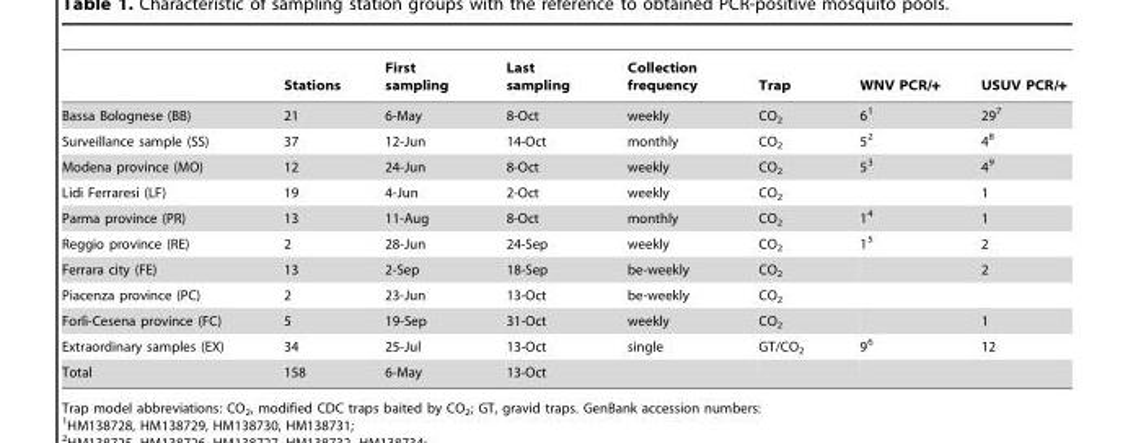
<table><thead><tr><td></td><td>Stations</td><td>First sampling</td><td>Last sampling</td><td>Collection frequency</td><td>Trap</td><td>WNV PCR/+</td><td>USUV PCR/+</td></tr></thead><tbody><tr><td>Bassa Bolognese (BB)</td><td>21</td><td>6-May</td><td>8-Oct</td><td>weekly</td><td>CO<sub>2</sub></td><td>6<sup>1</sup></td><td>29<sup>7</sup></td></tr><tr><td>Surveillance sample (SS)</td><td>37</td><td>12-Jun</td><td>14-Oct</td><td>monthly</td><td>CO<sub>2</sub></td><td>5<sup>2</sup></td><td>4<sup>8</sup></td></tr><tr><td>Modena province (MO)</td><td>12</td><td>24-Jun</td><td>8-Oct</td><td>weekly</td><td>CO<sub>2</sub></td><td>5<sup>3</sup></td><td>4<sup>9</sup></td></tr><tr><td>Lidi Ferraresi (LF)</td><td>19</td><td>4-Jun</td><td>2-Oct</td><td>weekly</td><td>CO<sub>2</sub></td><td></td><td>1</td></tr><tr><td>Parma province (PR)</td><td>13</td><td>11-Aug</td><td>8-Oct</td><td>monthly</td><td>CO<sub>2</sub></td><td>1<sup>4</sup></td><td>1</td></tr><tr><td>Reggio province (RE)</td><td>2</td><td>28-Jun</td><td>24-Sep</td><td>weekly</td><td>CO<sub>2</sub></td><td>1<sup>5</sup></td><td>2</td></tr><tr><td>Ferrara city (FE)</td><td>13</td><td>2-Sep</td><td>18-Sep</td><td>be-weekly</td><td>CO<sub>2</sub></td><td></td><td>2</td></tr><tr><td>Piacenza province (PC)</td><td>2</td><td>23-Jun</td><td>13-Oct</td><td>be-weekly</td><td>CO<sub>2</sub></td><td></td><td></td></tr><tr><td>Forlı`-Cesena province (FC)</td><td>5</td><td>19-Sep</td><td>31-Oct</td><td>weekly</td><td>CO<sub>2</sub></td><td></td><td>1</td></tr><tr><td>Extraordinary samples (EX)</td><td>34</td><td>25-Jul</td><td>13-Oct</td><td>single</td><td>GT/CO<sub>2</sub></td><td>9<sup>6</sup></td><td>12</td></tr><tr><td>Total</td><td>158</td><td>6-May</td><td>13-Oct</td><td></td><td></td><td></td><td></td></tr></tbody></table>